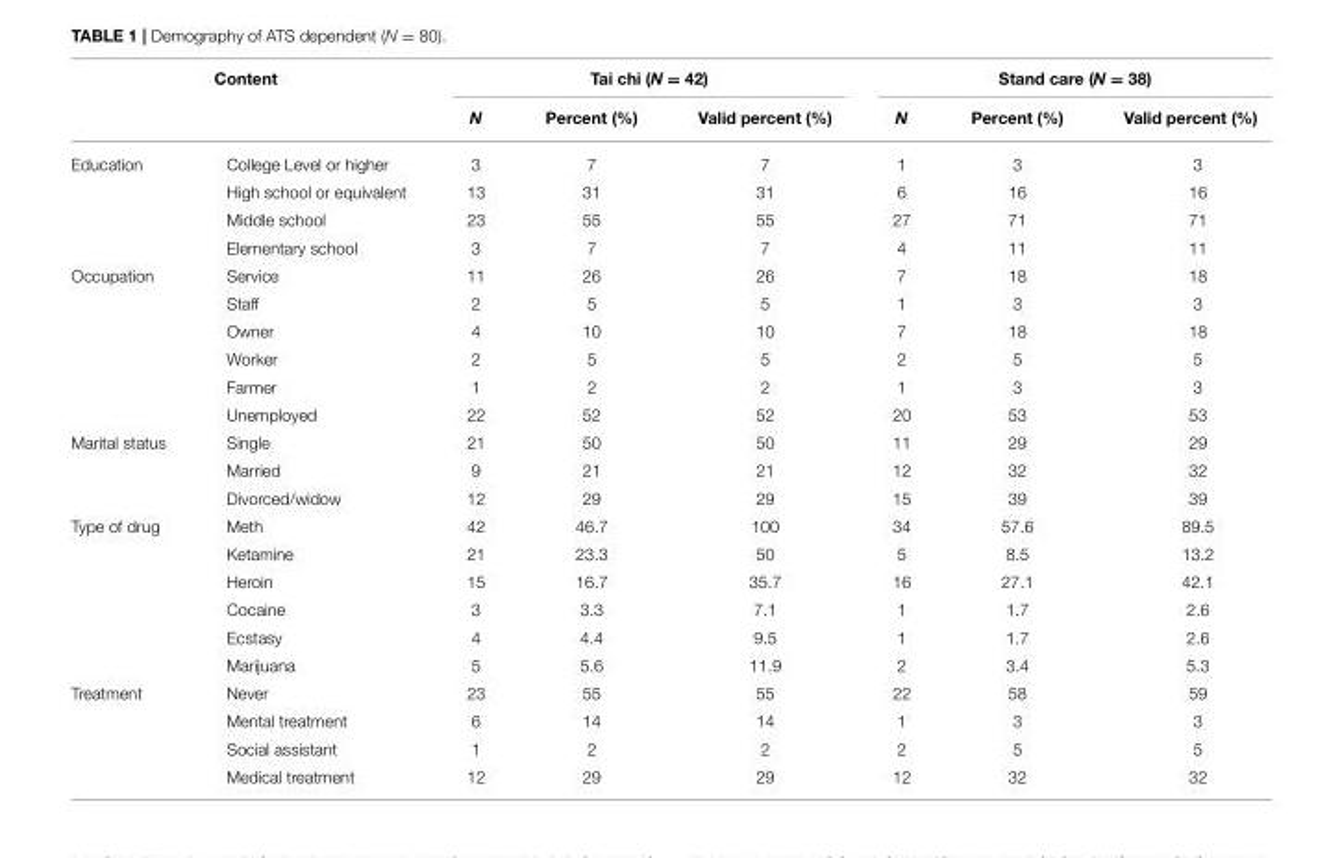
<table><thead><tr><td colspan="2">Content</td><td colspan="3">Tai chi (N = 42)</td><td colspan="3">Stand care (N = 38)</td></tr><tr><td></td><td></td><td>N</td><td>Percent (%)</td><td>Valid percent (%)</td><td>N</td><td>Percent (%)</td><td>Valid percent (%)</td></tr></thead><tbody><tr><td rowspan="4">Education</td><td>College Level or higher</td><td>3</td><td>7</td><td>7</td><td>1</td><td>3</td><td>3</td></tr><tr><td>High school or equivalent</td><td>13</td><td>31</td><td>31</td><td>6</td><td>16</td><td>16</td></tr><tr><td>Middle school</td><td>23</td><td>55</td><td>55</td><td>27</td><td>71</td><td>71</td></tr><tr><td>Elementary school</td><td>3</td><td>7</td><td>7</td><td>4</td><td>11</td><td>11</td></tr><tr><td rowspan="6">Occupation</td><td>Service</td><td>11</td><td>26</td><td>26</td><td>7</td><td>18</td><td>18</td></tr><tr><td>Staff</td><td>2</td><td>5</td><td>5</td><td>1</td><td>3</td><td>3</td></tr><tr><td>Owner</td><td>4</td><td>10</td><td>10</td><td>7</td><td>18</td><td>18</td></tr><tr><td>Worker</td><td>2</td><td>5</td><td>5</td><td>2</td><td>5</td><td>5</td></tr><tr><td>Farmer</td><td>1</td><td>2</td><td>2</td><td>1</td><td>3</td><td>3</td></tr><tr><td>Unemployed</td><td>22</td><td>52</td><td>52</td><td>20</td><td>53</td><td>53</td></tr><tr><td rowspan="3">Marital status</td><td>Single</td><td>21</td><td>50</td><td>50</td><td>11</td><td>29</td><td>29</td></tr><tr><td>Married</td><td>9</td><td>21</td><td>21</td><td>12</td><td>32</td><td>32</td></tr><tr><td>Divorced/widow</td><td>12</td><td>29</td><td>29</td><td>15</td><td>39</td><td>39</td></tr><tr><td rowspan="6">Type of drug</td><td>Meth</td><td>42</td><td>46.7</td><td>100</td><td>34</td><td>57.6</td><td>89.5</td></tr><tr><td>Ketamine</td><td>21</td><td>23.3</td><td>50</td><td>5</td><td>8.5</td><td>13.2</td></tr><tr><td>Heroin</td><td>15</td><td>16.7</td><td>35.7</td><td>16</td><td>27.1</td><td>42.1</td></tr><tr><td>Cocaine</td><td>3</td><td>3.3</td><td>7.1</td><td>1</td><td>1.7</td><td>2.6</td></tr><tr><td>Ecstasy</td><td>4</td><td>4.4</td><td>9.5</td><td>1</td><td>1.7</td><td>2.6</td></tr><tr><td>Marijuana</td><td>5</td><td>5.6</td><td>11.9</td><td>2</td><td>3.4</td><td>5.3</td></tr><tr><td rowspan="4">Treatment</td><td>Never</td><td>23</td><td>55</td><td>55</td><td>22</td><td>58</td><td>59</td></tr><tr><td>Mental treatment</td><td>6</td><td>14</td><td>14</td><td>1</td><td>3</td><td>3</td></tr><tr><td>Social assistant</td><td>1</td><td>2</td><td>2</td><td>2</td><td>5</td><td>5</td></tr><tr><td>Medical treatment</td><td>12</td><td>29</td><td>29</td><td>12</td><td>32</td><td>32</td></tr></tbody></table>